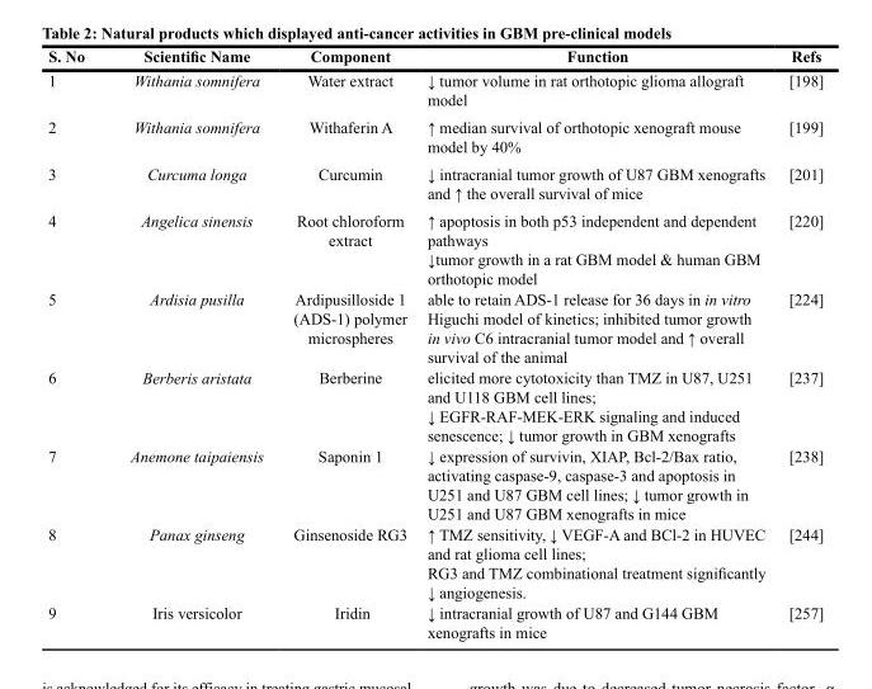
<table><thead><tr><td>S. No</td><td>Scientific Name</td><td>Component</td><td>Function</td><td>Refs</td></tr></thead><tbody><tr><td>1</td><td>Withania somnifera</td><td>Water extract</td><td>↓ tumor volume in rat orthotopic glioma allograft model</td><td>[198]</td></tr><tr><td>2</td><td>Withania somnifera</td><td>Withaferin A</td><td>↑ median survival of orthotopic xenograft mouse model by 40%</td><td>[199]</td></tr><tr><td>3</td><td>Curcuma longa</td><td>Curcumin</td><td>↓ intracranial tumor growth of U87 GBM xenografts and ↑ the overall survival of mice</td><td>[201]</td></tr><tr><td>4</td><td>Angelica sinensis</td><td>Root chloroform extract</td><td>↑ apoptosis in both p53 independent and dependent pathways ↓tumor growth in a rat GBM model &amp; human GBM orthotopic model</td><td>[220]</td></tr><tr><td>5</td><td>Ardisia pusilla</td><td>Ardipusilloside 1 (ADS-1) polymer microspheres</td><td>able to retain ADS-1 release for 36 days in in vitro Higuchi model of kinetics; inhibited tumor growth in vivo C6 intracranial tumor model and ↑ overall survival of the animal</td><td>[224]</td></tr><tr><td>6</td><td>Berberis aristata</td><td>Berberine</td><td>elicited more cytotoxicity than TMZ in U87, U251 and U118 GBM cell lines; ↓ EGFR-RAF-MEK-ERK signaling and induced senescence; ↓ tumor growth in GBM xenografts</td><td>[237]</td></tr><tr><td>7</td><td>Anemone taipaiensis</td><td>Saponin 1</td><td>↓ expression of survivin, XIAP, Bcl-2/Bax ratio, activating caspase-9, caspase-3 and apoptosis in U251 and U87 GBM cell lines; ↓ tumor growth in U251 and U87 GBM xenografts in mice</td><td>[238]</td></tr><tr><td>8</td><td>Panax ginseng</td><td>Ginsenoside RG3</td><td>↑ TMZ sensitivity, ↓ VEGF-A and BCl-2 in HUVEC and rat glioma cell lines; RG3 and TMZ combinational treatment significantly ↓ angiogenesis.</td><td>[244]</td></tr><tr><td>9</td><td>Iris versicolor</td><td>Iridin</td><td>↓ intracranial growth of U87 and G144 GBM xenografts in mice</td><td>[257]</td></tr></tbody></table>